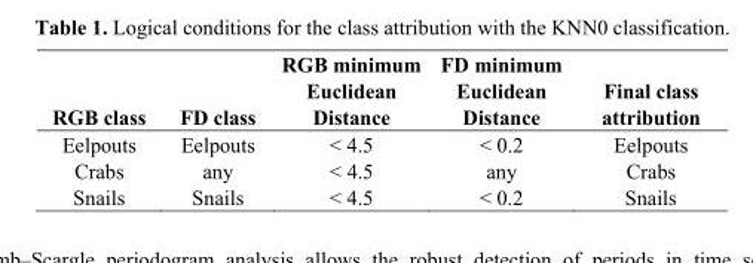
<table><thead><tr><td>RGB class</td><td>FD class</td><td>RGB minimum Euclidean Distance</td><td>FD minimum Euclidean Distance</td><td>Final class attribution</td></tr></thead><tbody><tr><td>Eelpouts</td><td>Eelpouts</td><td>&lt; 4.5</td><td>&lt; 0.2</td><td>Eelpouts</td></tr><tr><td>Crabs</td><td>any</td><td>&lt; 4.5</td><td>any</td><td>Crabs</td></tr><tr><td>Snails</td><td>Snails</td><td>&lt; 4.5</td><td>&lt; 0.2</td><td>Snails</td></tr></tbody></table>